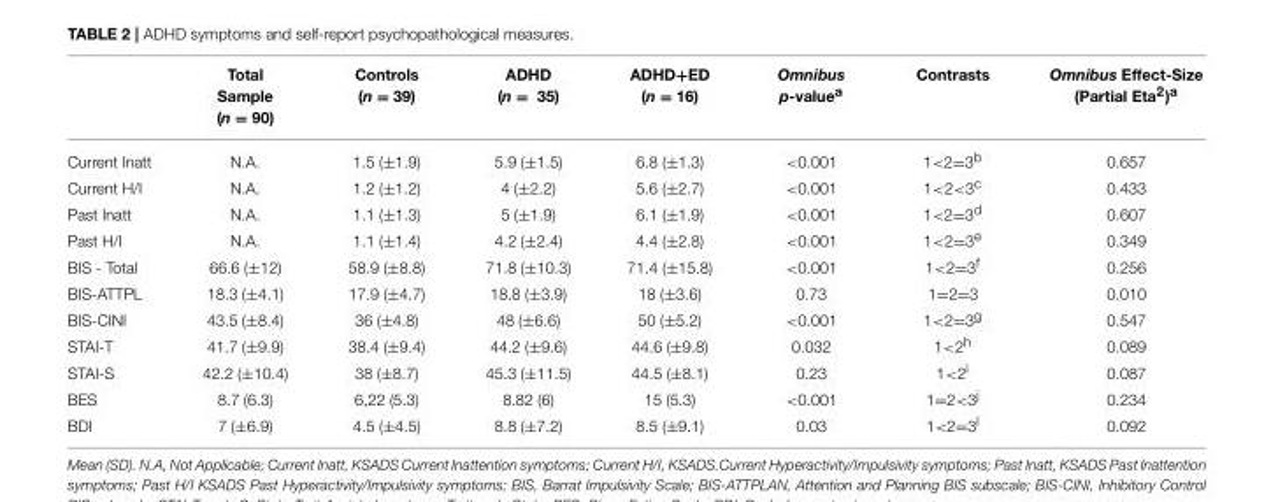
<table><thead><tr><td></td><td>Total Sample (n = 90)</td><td>Controls (n = 39)</td><td>ADHD (n = 35)</td><td>ADHD+ED (n = 16)</td><td>Omnibus p-value<sup>a</sup></td><td>Contrasts</td><td>Omnibus Effect-Size (Partial Eta<sup>2</sup>)<sup>a</sup></td></tr></thead><tbody><tr><td>Current Inatt</td><td>N.A.</td><td>1.5 (±1.9)</td><td>5.9 (±1.5)</td><td>6.8 (±1.3)</td><td>&lt;0.001</td><td>1&lt;2=3<sup>b</sup></td><td>0.657</td></tr><tr><td>Current H/I</td><td>N.A.</td><td>1.2 (±1.2)</td><td>4 (±2.2)</td><td>5.6 (±2.7)</td><td>&lt;0.001</td><td>1&lt;2&lt;3<sup>c</sup></td><td>0.433</td></tr><tr><td>Past Inatt</td><td>N.A.</td><td>1.1 (±1.3)</td><td>5 (±1.9)</td><td>6.1 (±1.9)</td><td>&lt;0.001</td><td>1&lt;2=3<sup>d</sup></td><td>0.607</td></tr><tr><td>Past H/I</td><td>N.A.</td><td>1.1 (±1.4)</td><td>4.2 (±2.4)</td><td>4.4 (±2.8)</td><td>&lt;0.001</td><td>1&lt;2=3<sup>e</sup></td><td>0.349</td></tr><tr><td>BIS - Total</td><td>66.6 (±12)</td><td>58.9 (±8.8)</td><td>71.8 (±10.3)</td><td>71.4 (±15.8)</td><td>&lt;0.001</td><td>1&lt;2=3<sup>f</sup></td><td>0.256</td></tr><tr><td>BIS-ATTPL</td><td>18.3 (±4.1)</td><td>17.9 (±4.7)</td><td>18.8 (±3.9)</td><td>18 (±3.6)</td><td>0.73</td><td>1=2=3</td><td>0.010</td></tr><tr><td>BIS-CINI</td><td>43.5 (±8.4)</td><td>36 (±4.8)</td><td>48 (±6.6)</td><td>50 (±5.2)</td><td>&lt;0.001</td><td>1&lt;2=3<sup>g</sup></td><td>0.547</td></tr><tr><td>STAI-T</td><td>41.7 (±9.9)</td><td>38.4 (±9.4)</td><td>44.2 (±9.6)</td><td>44.6 (±9.8)</td><td>0.032</td><td>1&lt;2<sup>h</sup></td><td>0.089</td></tr><tr><td>STAI-S</td><td>42.2 (±10.4)</td><td>38 (±8.7)</td><td>45.3 (±11.5)</td><td>44.5 (±8.1)</td><td>0.23</td><td>1&lt;2<sup>i</sup></td><td>0.087</td></tr><tr><td>BES</td><td>8.7 (6.3)</td><td>6,22 (5.3)</td><td>8.82 (6)</td><td>15 (5.3)</td><td>&lt;0.001</td><td>1=2&lt;3<sup>j</sup></td><td>0.234</td></tr><tr><td>BDI</td><td>7 (±6.9)</td><td>4.5 (±4.5)</td><td>8.8 (±7.2)</td><td>8.5 (±9.1)</td><td>0.03</td><td>1&lt;2=3<sup>l</sup></td><td>0.092</td></tr></tbody></table>